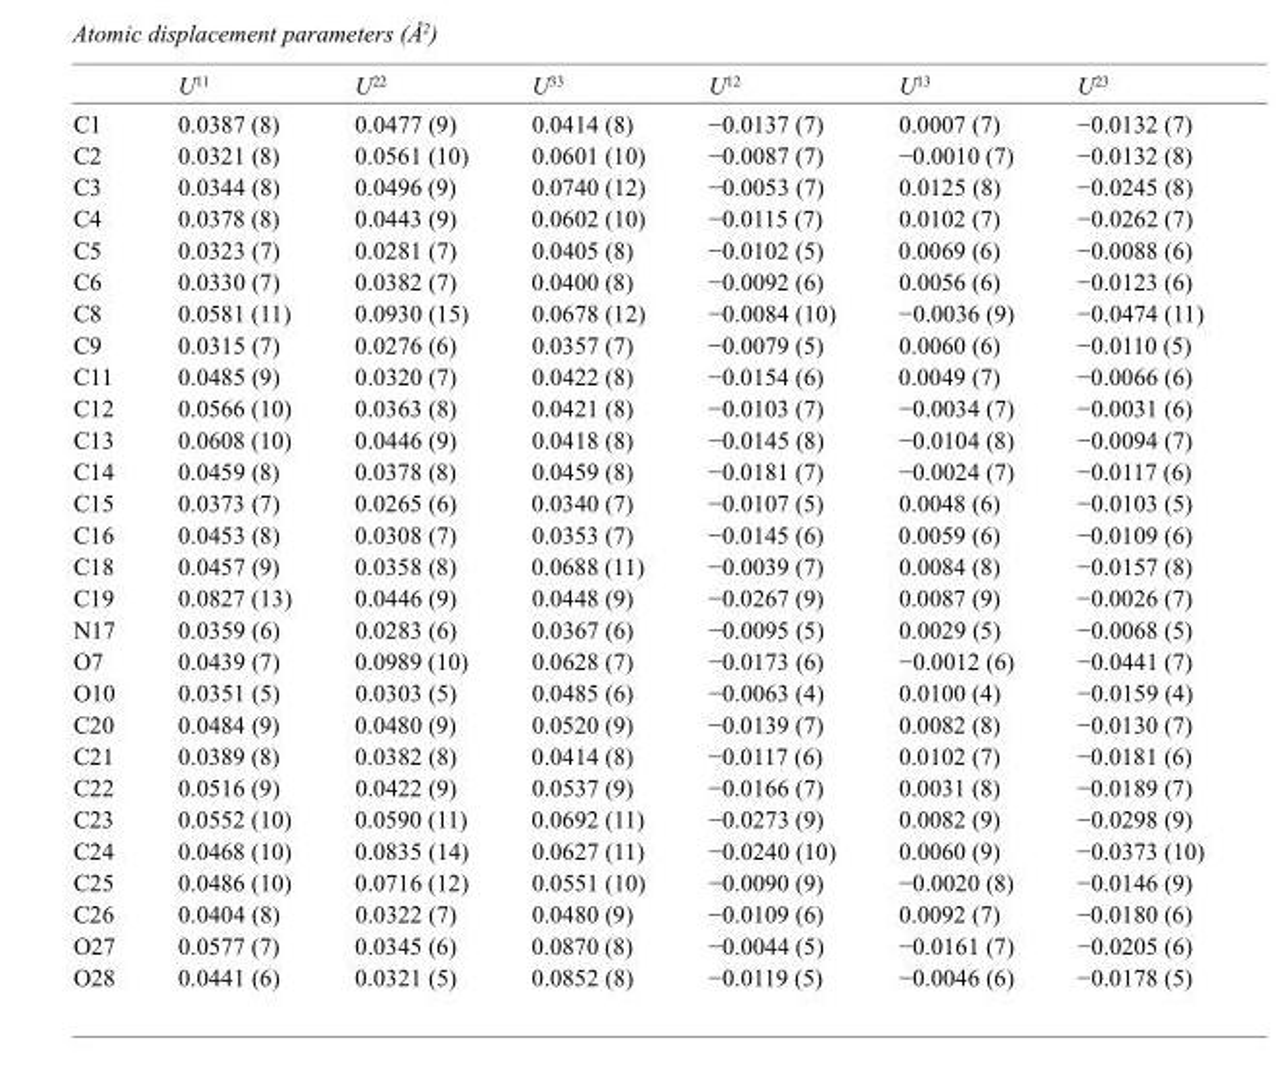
<table><thead><tr><td></td><td>U<sup>11</sup></td><td>U<sup>22</sup></td><td>U<sup>33</sup></td><td>U<sup>12</sup></td><td>U<sup>13</sup></td><td>U<sup>23</sup></td></tr></thead><tbody><tr><td>C1</td><td>0.0387 (8)</td><td>0.0477 (9)</td><td>0.0414 (8)</td><td>−0.0137 (7)</td><td>0.0007 (7)</td><td>−0.0132 (7)</td></tr><tr><td>C2</td><td>0.0321 (8)</td><td>0.0561 (10)</td><td>0.0601 (10)</td><td>−0.0087 (7)</td><td>−0.0010 (7)</td><td>−0.0132 (8)</td></tr><tr><td>C3</td><td>0.0344 (8)</td><td>0.0496 (9)</td><td>0.0740 (12)</td><td>−0.0053 (7)</td><td>0.0125 (8)</td><td>−0.0245 (8)</td></tr><tr><td>C4</td><td>0.0378 (8)</td><td>0.0443 (9)</td><td>0.0602 (10)</td><td>−0.0115 (7)</td><td>0.0102 (7)</td><td>−0.0262 (7)</td></tr><tr><td>C5</td><td>0.0323 (7)</td><td>0.0281 (7)</td><td>0.0405 (8)</td><td>−0.0102 (5)</td><td>0.0069 (6)</td><td>−0.0088 (6)</td></tr><tr><td>C6</td><td>0.0330 (7)</td><td>0.0382 (7)</td><td>0.0400 (8)</td><td>−0.0092 (6)</td><td>0.0056 (6)</td><td>−0.0123 (6)</td></tr><tr><td>C8</td><td>0.0581 (11)</td><td>0.0930 (15)</td><td>0.0678 (12)</td><td>−0.0084 (10)</td><td>−0.0036 (9)</td><td>−0.0474 (11)</td></tr><tr><td>C9</td><td>0.0315 (7)</td><td>0.0276 (6)</td><td>0.0357 (7)</td><td>−0.0079 (5)</td><td>0.0060 (6)</td><td>−0.0110 (5)</td></tr><tr><td>C11</td><td>0.0485 (9)</td><td>0.0320 (7)</td><td>0.0422 (8)</td><td>−0.0154 (6)</td><td>0.0049 (7)</td><td>−0.0066 (6)</td></tr><tr><td>C12</td><td>0.0566 (10)</td><td>0.0363 (8)</td><td>0.0421 (8)</td><td>−0.0103 (7)</td><td>−0.0034 (7)</td><td>−0.0031 (6)</td></tr><tr><td>C13</td><td>0.0608 (10)</td><td>0.0446 (9)</td><td>0.0418 (8)</td><td>−0.0145 (8)</td><td>−0.0104 (8)</td><td>−0.0094 (7)</td></tr><tr><td>C14</td><td>0.0459 (8)</td><td>0.0378 (8)</td><td>0.0459 (8)</td><td>−0.0181 (7)</td><td>−0.0024 (7)</td><td>−0.0117 (6)</td></tr><tr><td>C15</td><td>0.0373 (7)</td><td>0.0265 (6)</td><td>0.0340 (7)</td><td>−0.0107 (5)</td><td>0.0048 (6)</td><td>−0.0103 (5)</td></tr><tr><td>C16</td><td>0.0453 (8)</td><td>0.0308 (7)</td><td>0.0353 (7)</td><td>−0.0145 (6)</td><td>0.0059 (6)</td><td>−0.0109 (6)</td></tr><tr><td>C18</td><td>0.0457 (9)</td><td>0.0358 (8)</td><td>0.0688 (11)</td><td>−0.0039 (7)</td><td>0.0084 (8)</td><td>−0.0157 (8)</td></tr><tr><td>C19</td><td>0.0827 (13)</td><td>0.0446 (9)</td><td>0.0448 (9)</td><td>−0.0267 (9)</td><td>0.0087 (9)</td><td>−0.0026 (7)</td></tr><tr><td>N17</td><td>0.0359 (6)</td><td>0.0283 (6)</td><td>0.0367 (6)</td><td>−0.0095 (5)</td><td>0.0029 (5)</td><td>−0.0068 (5)</td></tr><tr><td>O7</td><td>0.0439 (7)</td><td>0.0989 (10)</td><td>0.0628 (7)</td><td>−0.0173 (6)</td><td>−0.0012 (6)</td><td>−0.0441 (7)</td></tr><tr><td>O10</td><td>0.0351 (5)</td><td>0.0303 (5)</td><td>0.0485 (6)</td><td>−0.0063 (4)</td><td>0.0100 (4)</td><td>−0.0159 (4)</td></tr><tr><td>C20</td><td>0.0484 (9)</td><td>0.0480 (9)</td><td>0.0520 (9)</td><td>−0.0139 (7)</td><td>0.0082 (8)</td><td>−0.0130 (7)</td></tr><tr><td>C21</td><td>0.0389 (8)</td><td>0.0382 (8)</td><td>0.0414 (8)</td><td>−0.0117 (6)</td><td>0.0102 (7)</td><td>−0.0181 (6)</td></tr><tr><td>C22</td><td>0.0516 (9)</td><td>0.0422 (9)</td><td>0.0537 (9)</td><td>−0.0166 (7)</td><td>0.0031 (8)</td><td>−0.0189 (7)</td></tr><tr><td>C23</td><td>0.0552 (10)</td><td>0.0590 (11)</td><td>0.0692 (11)</td><td>−0.0273 (9)</td><td>0.0082 (9)</td><td>−0.0298 (9)</td></tr><tr><td>C24</td><td>0.0468 (10)</td><td>0.0835 (14)</td><td>0.0627 (11)</td><td>−0.0240 (10)</td><td>0.0060 (9)</td><td>−0.0373 (10)</td></tr><tr><td>C25</td><td>0.0486 (10)</td><td>0.0716 (12)</td><td>0.0551 (10)</td><td>−0.0090 (9)</td><td>−0.0020 (8)</td><td>−0.0146 (9)</td></tr><tr><td>C26</td><td>0.0404 (8)</td><td>0.0322 (7)</td><td>0.0480 (9)</td><td>−0.0109 (6)</td><td>0.0092 (7)</td><td>−0.0180 (6)</td></tr><tr><td>O27</td><td>0.0577 (7)</td><td>0.0345 (6)</td><td>0.0870 (8)</td><td>−0.0044 (5)</td><td>−0.0161 (7)</td><td>−0.0205 (6)</td></tr><tr><td>O28</td><td>0.0441 (6)</td><td>0.0321 (5)</td><td>0.0852 (8)</td><td>−0.0119 (5)</td><td>−0.0046 (6)</td><td>−0.0178 (5)</td></tr></tbody></table>